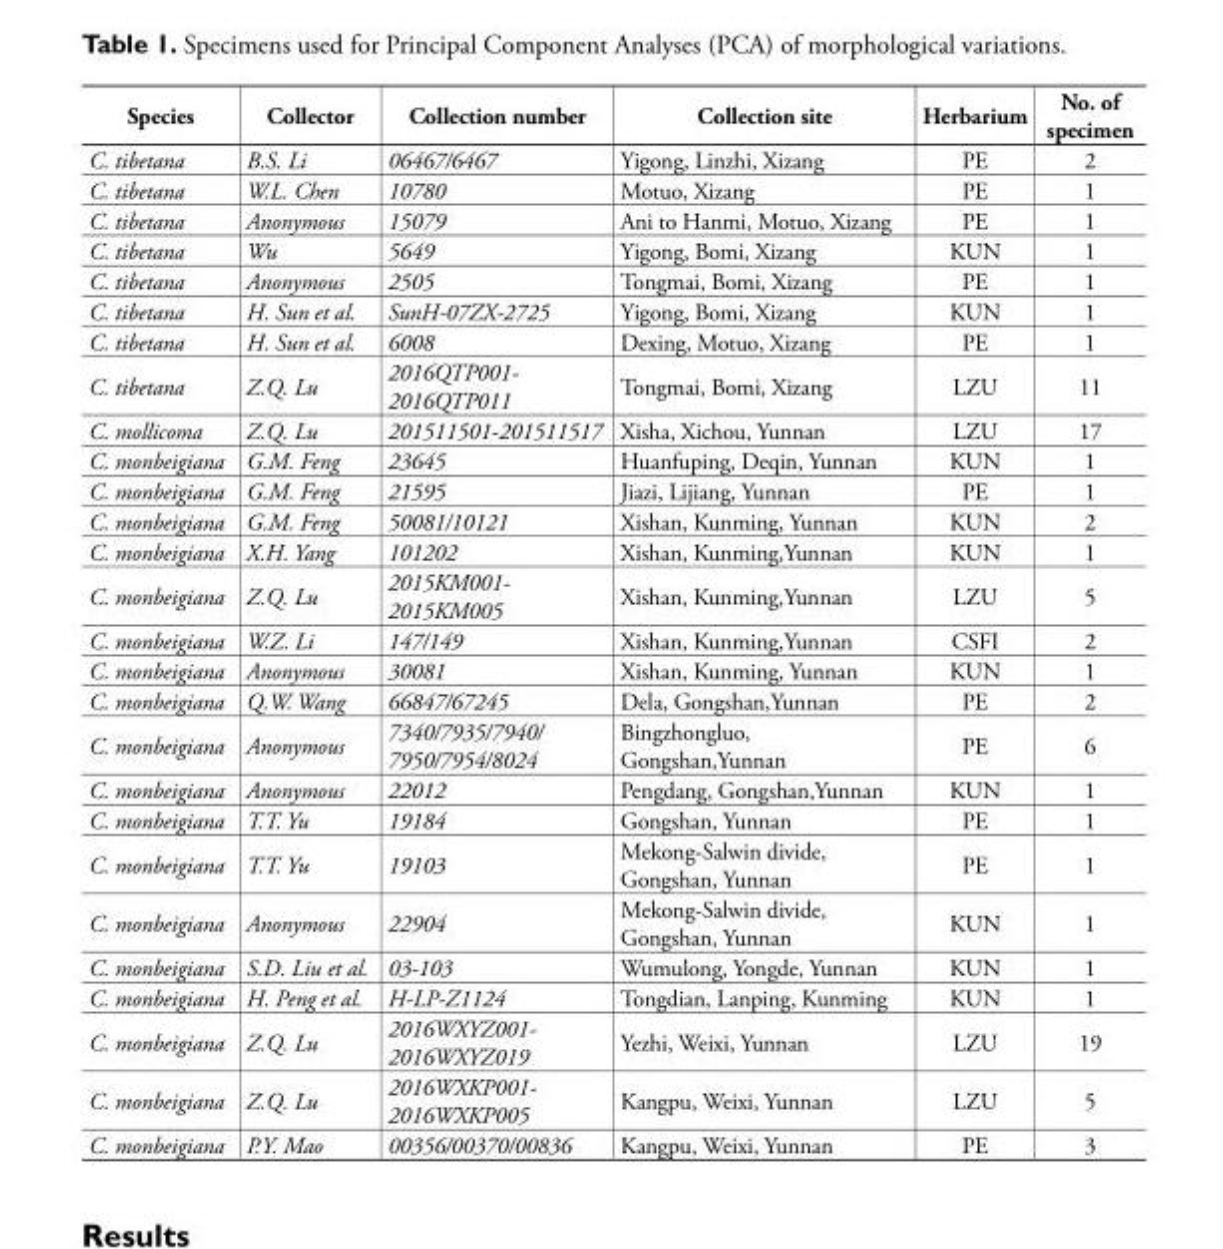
<table><tbody><tr><td>Species</td><td>Collector</td><td>Collection number</td><td>Collection site</td><td>Herbarium</td><td>No. of specimen</td></tr><tr><td>C. tibetana</td><td>B.S. Li</td><td>06467/6467</td><td>Yigong, Linzhi, Xizang</td><td>PE</td><td>2</td></tr><tr><td>C. tibetana</td><td>W.L. Chen</td><td>10780</td><td>Motuo, Xizang</td><td>PE</td><td>1</td></tr><tr><td>C. tibetana</td><td>Anonymous</td><td>15079</td><td>Ani to Hanmi, Motuo, Xizang</td><td>PE</td><td>1</td></tr><tr><td>C. tibetana</td><td>Wu</td><td>5649</td><td>Yigong, Bomi, Xizang</td><td>KUN</td><td>1</td></tr><tr><td>C. tibetana</td><td>Anonymous</td><td>2505</td><td>Tongmai, Bomi, Xizang</td><td>PE</td><td>1</td></tr><tr><td>C. tibetana</td><td>H. Sun et al.</td><td>SunH-07ZX-2725</td><td>Yigong, Bomi, Xizang</td><td>KUN</td><td>1</td></tr><tr><td>C. tibetana</td><td>H. Sun et al.</td><td>6008</td><td>Dexing, Motuo, Xizang</td><td>PE</td><td>1</td></tr><tr><td>C. tibetana</td><td>Z.Q. Lu</td><td>2016QTP001- 2016QTP011</td><td>Tongmai, Bomi, Xizang</td><td>LZU</td><td>11</td></tr><tr><td>C. mollicoma</td><td>Z.Q. Lu</td><td>201511501-201511517</td><td>Xisha, Xichou, Yunnan</td><td>LZU</td><td>17</td></tr><tr><td>C. monbeigiana</td><td>G.M. Feng</td><td>23645</td><td>Huanfuping, Deqin, Yunnan</td><td>KUN</td><td>1</td></tr><tr><td>C. monbeigiana</td><td>G.M. Feng</td><td>21595</td><td>Jiazi, Lijiang, Yunnan</td><td>PE</td><td>1</td></tr><tr><td>C. monbeigiana</td><td>G.M. Feng</td><td>50081/10121</td><td>Xishan, Kunming, Yunnan</td><td>KUN</td><td>2</td></tr><tr><td>C. monbeigiana</td><td>X.H. Yang</td><td>101202</td><td>Xishan, Kunming,Yunnan</td><td>KUN</td><td>1</td></tr><tr><td>C. monbeigiana</td><td>Z.Q. Lu</td><td>2015KM001- 2015KM005</td><td>Xishan, Kunming,Yunnan</td><td>LZU</td><td>5</td></tr><tr><td>C. monbeigiana</td><td>W.Z. Li</td><td>147/149</td><td>Xishan, Kunming,Yunnan</td><td>CSFI</td><td>2</td></tr><tr><td>C. monbeigiana</td><td>Anonymous</td><td>30081</td><td>Xishan, Kunming, Yunnan</td><td>KUN</td><td>1</td></tr><tr><td>C. monbeigiana</td><td>Q.W. Wang</td><td>66847/67245</td><td>Dela, Gongshan,Yunnan</td><td>PE</td><td>2</td></tr><tr><td>C. monbeigiana</td><td>Anonymous</td><td>7340/7935/7940/ 7950/7954/8024</td><td>Bingzhongluo, Gongshan,Yunnan</td><td>PE</td><td>6</td></tr><tr><td>C. monbeigiana</td><td>Anonymous</td><td>22012</td><td>Pengdang, Gongshan,Yunnan</td><td>KUN</td><td>1</td></tr><tr><td>C. monbeigiana</td><td>T.T. Yu</td><td>19184</td><td>Gongshan, Yunnan</td><td>PE</td><td>1</td></tr><tr><td>C. monbeigiana</td><td>T.T. Yu</td><td>19103</td><td>Mekong-Salwin divide, Gongshan, Yunnan</td><td>PE</td><td>1</td></tr><tr><td>C. monbeigiana</td><td>Anonymous</td><td>22904</td><td>Mekong-Salwin divide, Gongshan, Yunnan</td><td>KUN</td><td>1</td></tr><tr><td>C. monbeigiana</td><td>S.D. Liu et al.</td><td>03-103</td><td>Wumulong, Yongde, Yunnan</td><td>KUN</td><td>1</td></tr><tr><td>C. monbeigiana</td><td>H. Peng et al.</td><td>H-LP-Z1124</td><td>Tongdian, Lanping, Kunming</td><td>KUN</td><td>1</td></tr><tr><td>C. monbeigiana</td><td>Z.Q. Lu</td><td>2016WXYZ001- 2016WXYZ019</td><td>Yezhi, Weixi, Yunnan</td><td>LZU</td><td>19</td></tr><tr><td>C. monbeigiana</td><td>Z.Q. Lu</td><td>2016WXKP001- 2016WXKP005</td><td>Kangpu, Weixi, Yunnan</td><td>LZU</td><td>5</td></tr><tr><td>C. monbeigiana</td><td>P.Y. Mao</td><td>00356/00370/00836</td><td>Kangpu, Weixi, Yunnan</td><td>PE</td><td>3</td></tr></tbody></table>